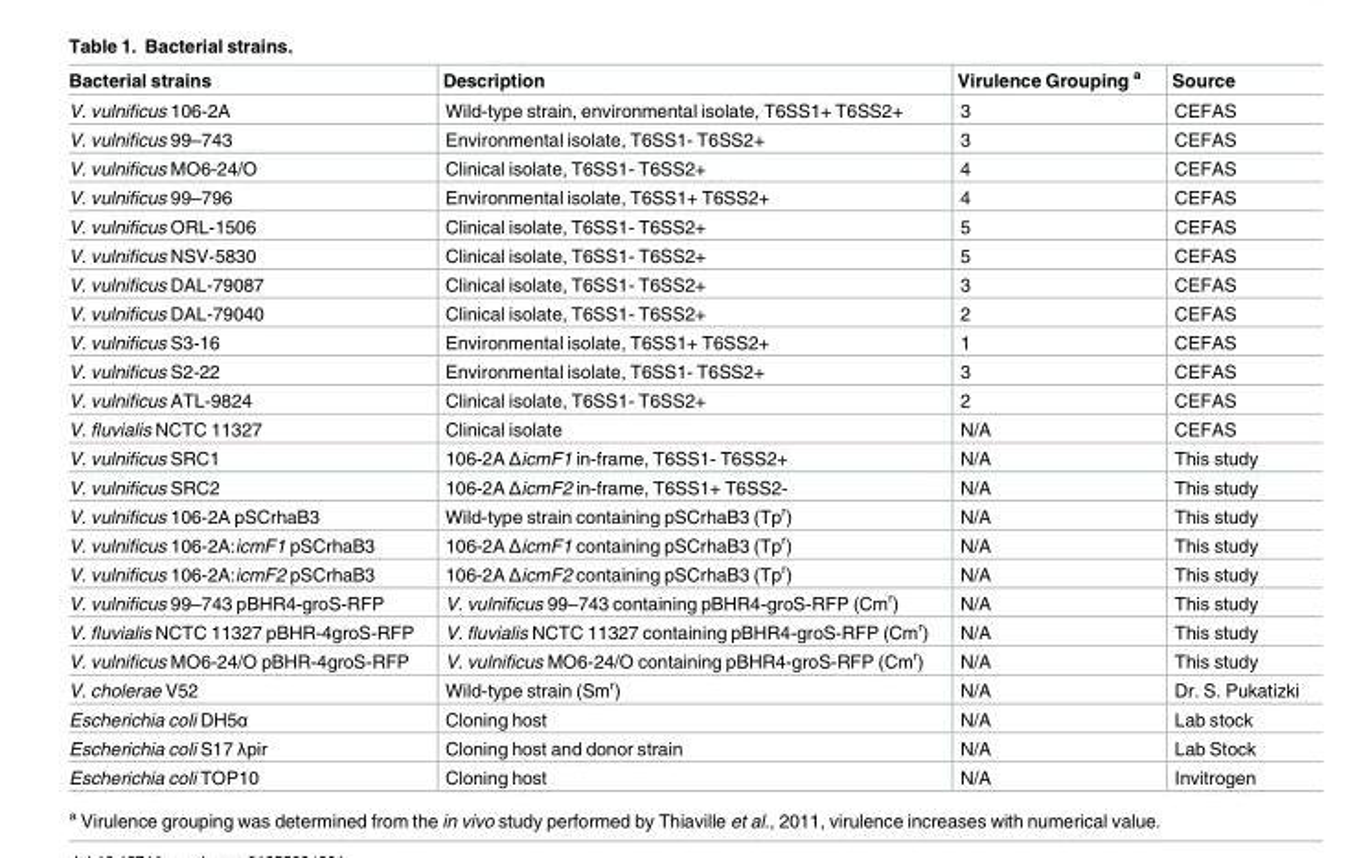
<table><thead><tr><td>Bacterial strains</td><td>Description</td><td>Virulence Grouping <sup>a</sup></td><td>Source</td></tr></thead><tbody><tr><td>V. vulnificus 106-2A</td><td>Wild-type strain, environmental isolate, T6SS1+ T6SS2+</td><td>3</td><td>CEFAS</td></tr><tr><td>V. vulnificus 99–743</td><td>Environmental isolate, T6SS1- T6SS2+</td><td>3</td><td>CEFAS</td></tr><tr><td>V. vulnificus MO6-24/O</td><td>Clinical isolate, T6SS1- T6SS2+</td><td>4</td><td>CEFAS</td></tr><tr><td>V. vulnificus 99–796</td><td>Environmental isolate, T6SS1+ T6SS2+</td><td>4</td><td>CEFAS</td></tr><tr><td>V. vulnificus ORL-1506</td><td>Clinical isolate, T6SS1- T6SS2+</td><td>5</td><td>CEFAS</td></tr><tr><td>V. vulnificus NSV-5830</td><td>Clinical isolate, T6SS1- T6SS2+</td><td>5</td><td>CEFAS</td></tr><tr><td>V. vulnificus DAL-79087</td><td>Clinical isolate, T6SS1- T6SS2+</td><td>3</td><td>CEFAS</td></tr><tr><td>V. vulnificus DAL-79040</td><td>Clinical isolate, T6SS1- T6SS2+</td><td>2</td><td>CEFAS</td></tr><tr><td>V. vulnificus S3-16</td><td>Environmental isolate, T6SS1+ T6SS2+</td><td>1</td><td>CEFAS</td></tr><tr><td>V. vulnificus S2-22</td><td>Environmental isolate, T6SS1- T6SS2+</td><td>3</td><td>CEFAS</td></tr><tr><td>V. vulnificus ATL-9824</td><td>Clinical isolate, T6SS1- T6SS2+</td><td>2</td><td>CEFAS</td></tr><tr><td>V. fluvialis NCTC 11327</td><td>Clinical isolate</td><td>N/A</td><td>CEFAS</td></tr><tr><td>V. vulnificus SRC1</td><td>106-2A ΔicmF1 in-frame, T6SS1- T6SS2+</td><td>N/A</td><td>This study</td></tr><tr><td>V. vulnificus SRC2</td><td>106-2A ΔicmF2 in-frame, T6SS1+ T6SS2-</td><td>N/A</td><td>This study</td></tr><tr><td>V. vulnificus 106-2A pSCrhaB3</td><td>Wild-type strain containing pSCrhaB3 (Tp<sup>r</sup>)</td><td>N/A</td><td>This study</td></tr><tr><td>V. vulnificus 106-2A:icmF1 pSCrhaB3</td><td>106-2A ΔicmF1 containing pSCrhaB3 (Tp<sup>r</sup>)</td><td>N/A</td><td>This study</td></tr><tr><td>V. vulnificus 106-2A:icmF2 pSCrhaB3</td><td>106-2A ΔicmF2 containing pSCrhaB3 (Tp<sup>r</sup>)</td><td>N/A</td><td>This study</td></tr><tr><td>V. vulnificus 99–743 pBHR4-groS-RFP</td><td>V. vulnificus 99–743 containing pBHR4-groS-RFP (Cm<sup>r</sup>)</td><td>N/A</td><td>This study</td></tr><tr><td>V. fluvialis NCTC 11327 pBHR-4groS-RFP</td><td>V. fluvialis NCTC 11327 containing pBHR4-groS-RFP (Cm<sup>r</sup>)</td><td>N/A</td><td>This study</td></tr><tr><td>V. vulnificus MO6-24/O pBHR-4groS-RFP</td><td>V. vulnificus MO6-24/O containing pBHR4-groS-RFP (Cm<sup>r</sup>)</td><td>N/A</td><td>This study</td></tr><tr><td>V. cholerae V52</td><td>Wild-type strain (Sm<sup>r</sup>)</td><td>N/A</td><td>Dr. S. Pukatizki</td></tr><tr><td>Escherichia coli DH5α</td><td>Cloning host</td><td>N/A</td><td>Lab stock</td></tr><tr><td>Escherichia coli S17 λpir</td><td>Cloning host and donor strain</td><td>N/A</td><td>Lab Stock</td></tr><tr><td>Escherichia coli TOP10</td><td>Cloning host</td><td>N/A</td><td>Invitrogen</td></tr></tbody></table>